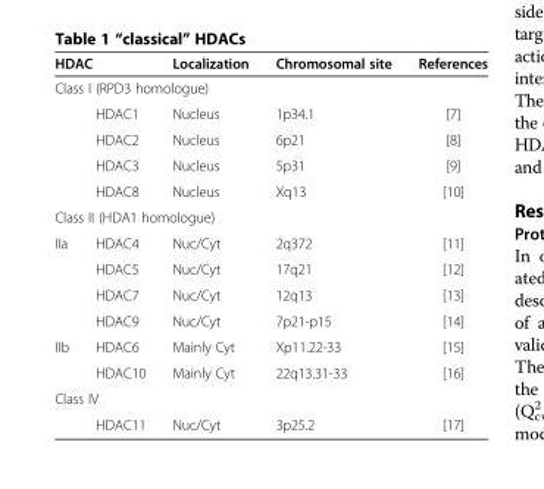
<table><thead><tr><td colspan="2">HDAC</td><td>Localization</td><td>Chromosomal site</td><td>References</td></tr><tr><td colspan="5">Class I (RPD3 homologue)</td></tr><tr><td></td><td>HDAC1</td><td>Nucleus</td><td>1p34.1</td><td>[7]</td></tr></thead><tbody><tr><td></td><td>HDAC2</td><td>Nucleus</td><td>6p21</td><td>[8]</td></tr><tr><td></td><td>HDAC3</td><td>Nucleus</td><td>5p31</td><td>[9]</td></tr><tr><td></td><td>HDAC8</td><td>Nucleus</td><td>Xq13</td><td>[10]</td></tr><tr><td colspan="5">Class II (HDA1 homologue)</td></tr><tr><td rowspan="4">IIa</td><td>HDAC4</td><td>Nuc/Cyt</td><td>2q372</td><td>[11]</td></tr><tr><td>HDAC5</td><td>Nuc/Cyt</td><td>17q21</td><td>[12]</td></tr><tr><td>HDAC7</td><td>Nuc/Cyt</td><td>12q13</td><td>[13]</td></tr><tr><td>HDAC9</td><td>Nuc/Cyt</td><td>7p21-p15</td><td>[14]</td></tr><tr><td rowspan="2">IIb</td><td>HDAC6</td><td>Mainly Cyt</td><td>Xp11.22-33</td><td>[15]</td></tr><tr><td>HDAC10</td><td>Mainly Cyt</td><td>22q13.31-33</td><td>[16]</td></tr><tr><td colspan="5">Class IV</td></tr><tr><td></td><td>HDAC11</td><td>Nuc/Cyt</td><td>3p25.2</td><td>[17]</td></tr></tbody></table>